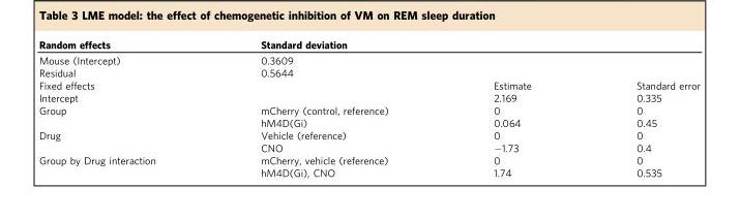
<table><thead><tr><td>Random effects</td><td>Standard deviation</td><td></td><td></td></tr></thead><tbody><tr><td>Mouse (Intercept)</td><td>0.3609</td><td></td><td></td></tr><tr><td>Residual</td><td>0.5644</td><td></td><td></td></tr><tr><td>Fixed effects</td><td></td><td>Estimate</td><td>Standard error</td></tr><tr><td>Intercept</td><td></td><td>2.169</td><td>0.335</td></tr><tr><td rowspan="2">Group</td><td>mCherry (control, reference)</td><td>0</td><td>0</td></tr><tr><td>hM4D(Gi)</td><td>0.064</td><td>0.45</td></tr><tr><td rowspan="2">Drug</td><td>Vehicle (reference)</td><td>0</td><td>0</td></tr><tr><td>CNO</td><td>−1.73</td><td>0.4</td></tr><tr><td rowspan="2">Group by Drug interaction</td><td>mCherry, vehicle (reference)</td><td>0</td><td>0</td></tr><tr><td>hM4D(Gi), CNO</td><td>1.74</td><td>0.535</td></tr></tbody></table>